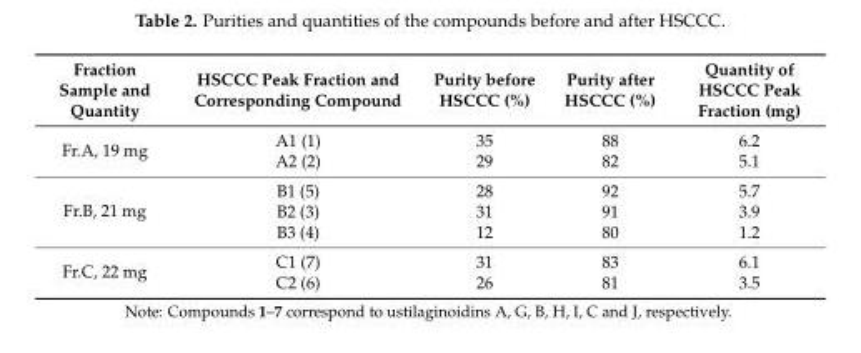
<table><thead><tr><td>Fraction Sample and Quantity</td><td>HSCCC Peak Fraction and Corresponding Compound</td><td>Purity before HSCCC (%)</td><td>Purity after HSCCC (%)</td><td>Quantity of HSCCC Peak Fraction (mg)</td></tr></thead><tbody><tr><td rowspan="2">Fr.A, 19 mg</td><td>A1 (1)</td><td>35</td><td>88</td><td>6.2</td></tr><tr><td>A2 (2)</td><td>29</td><td>82</td><td>5.1</td></tr><tr><td rowspan="3">Fr.B, 21 mg</td><td>B1 (5)</td><td>28</td><td>92</td><td>5.7</td></tr><tr><td>B2 (3)</td><td>31</td><td>91</td><td>3.9</td></tr><tr><td>B3 (4)</td><td>12</td><td>80</td><td>1.2</td></tr><tr><td rowspan="2">Fr.C, 22 mg</td><td>C1 (7)</td><td>31</td><td>83</td><td>6.1</td></tr><tr><td>C2 (6)</td><td>26</td><td>81</td><td>3.5</td></tr></tbody></table>